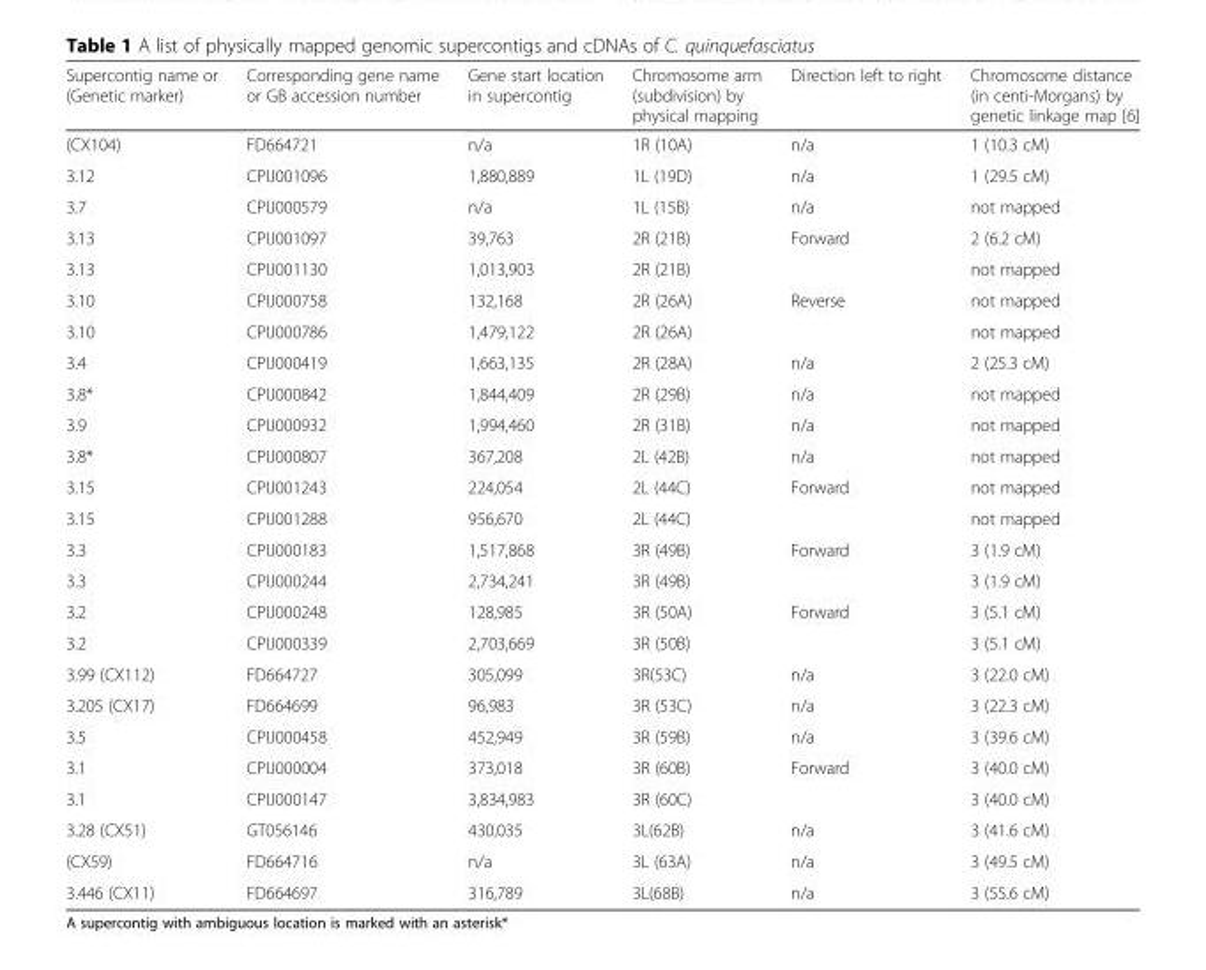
<table><thead><tr><td>Supercontig name or (Genetic marker)</td><td>Corresponding gene name or GB accession number</td><td>Gene start location in supercontig</td><td>Chromosome arm (subdivision) by physical mapping</td><td>Direction left to right</td><td>Chromosome distance (in centi-Morgans) by genetic linkage map [6]</td></tr></thead><tbody><tr><td>(CX104)</td><td>FD664721</td><td>n/a</td><td>1R (10A)</td><td>n/a</td><td>1 (10.3 cM)</td></tr><tr><td>3.12</td><td>CPIJ001096</td><td>1,880,889</td><td>1L (19D)</td><td>n/a</td><td>1 (29.5 cM)</td></tr><tr><td>3.7</td><td>CPIJ000579</td><td>n/a</td><td>1L (15B)</td><td>n/a</td><td>not mapped</td></tr><tr><td>3.13</td><td>CPIJ001097</td><td>39,763</td><td>2R (21B)</td><td>Forward</td><td>2 (6.2 cM)</td></tr><tr><td>3.13</td><td>CPIJ001130</td><td>1,013,903</td><td>2R (21B)</td><td></td><td>not mapped</td></tr><tr><td>3.10</td><td>CPIJ000758</td><td>132,168</td><td>2R (26A)</td><td>Reverse</td><td>not mapped</td></tr><tr><td>3.10</td><td>CPIJ000786</td><td>1,479,122</td><td>2R (26A)</td><td></td><td>not mapped</td></tr><tr><td>3.4</td><td>CPIJ000419</td><td>1,663,135</td><td>2R (28A)</td><td>n/a</td><td>2 (25.3 cM)</td></tr><tr><td>3.8*</td><td>CPIJ000842</td><td>1,844,409</td><td>2R (29B)</td><td>n/a</td><td>not mapped</td></tr><tr><td>3.9</td><td>CPIJ000932</td><td>1,994,460</td><td>2R (31B)</td><td>n/a</td><td>not mapped</td></tr><tr><td>3.8*</td><td>CPIJ000807</td><td>367,208</td><td>2L (42B)</td><td>n/a</td><td>not mapped</td></tr><tr><td>3.15</td><td>CPIJ001243</td><td>224,054</td><td>2L (44C)</td><td>Forward</td><td>not mapped</td></tr><tr><td>3.15</td><td>CPIJ001288</td><td>956,670</td><td>2L (44C)</td><td></td><td>not mapped</td></tr><tr><td>3.3</td><td>CPIJ000183</td><td>1,517,868</td><td>3R (49B)</td><td>Forward</td><td>3 (1.9 cM)</td></tr><tr><td>3.3</td><td>CPIJ000244</td><td>2,734,241</td><td>3R (49B)</td><td></td><td>3 (1.9 cM)</td></tr><tr><td>3.2</td><td>CPIJ000248</td><td>128,985</td><td>3R (50A)</td><td>Forward</td><td>3 (5.1 cM)</td></tr><tr><td>3.2</td><td>CPIJ000339</td><td>2,703,669</td><td>3R (50B)</td><td></td><td>3 (5.1 cM)</td></tr><tr><td>3.99 (CX112)</td><td>FD664727</td><td>305,099</td><td>3R(53C)</td><td>n/a</td><td>3 (22.0 cM)</td></tr><tr><td>3.205 (CX17)</td><td>FD664699</td><td>96,983</td><td>3R (53C)</td><td>n/a</td><td>3 (22.3 cM)</td></tr><tr><td>3.5</td><td>CPIJ000458</td><td>452,949</td><td>3R (59B)</td><td>n/a</td><td>3 (39.6 cM)</td></tr><tr><td>3.1</td><td>CPIJ000004</td><td>373,018</td><td>3R (60B)</td><td>Forward</td><td>3 (40.0 cM)</td></tr><tr><td>3.1</td><td>CPIJ000147</td><td>3,834,983</td><td>3R (60C)</td><td></td><td>3 (40.0 cM)</td></tr><tr><td>3.28 (CX51)</td><td>GT056146</td><td>430,035</td><td>3L(62B)</td><td>n/a</td><td>3 (41.6 cM)</td></tr><tr><td>(CX59)</td><td>FD664716</td><td>n/a</td><td>3L (63A)</td><td>n/a</td><td>3 (49.5 cM)</td></tr><tr><td>3.446 (CX11)</td><td>FD664697</td><td>316,789</td><td>3L(68B)</td><td>n/a</td><td>3 (55.6 cM)</td></tr></tbody></table>